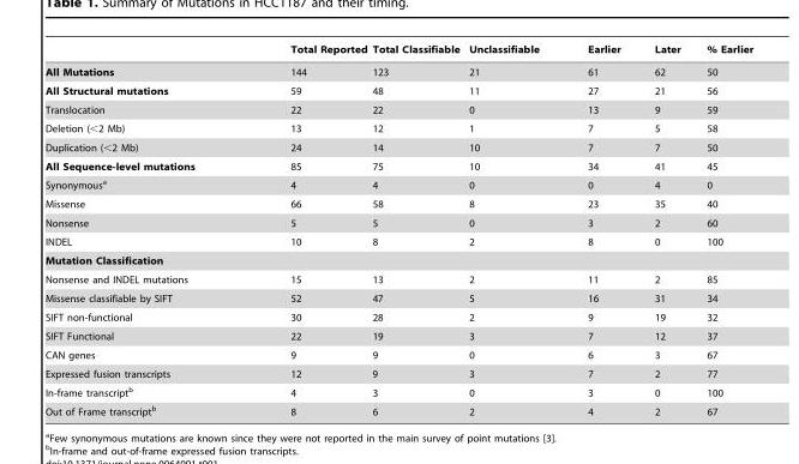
<table><thead><tr><td></td><td>Total Reported</td><td>Total Classifiable</td><td>Unclassifiable</td><td>Earlier</td><td>Later</td><td>% Earlier</td></tr></thead><tbody><tr><td>All Mutations</td><td>144</td><td>123</td><td>21</td><td>61</td><td>62</td><td>50</td></tr><tr><td>All Structural mutations</td><td>59</td><td>48</td><td>11</td><td>27</td><td>21</td><td>56</td></tr><tr><td>Translocation</td><td>22</td><td>22</td><td>0</td><td>13</td><td>9</td><td>59</td></tr><tr><td>Deletion (&lt;2 Mb)</td><td>13</td><td>12</td><td>1</td><td>7</td><td>5</td><td>58</td></tr><tr><td>Duplication (&lt;2 Mb)</td><td>24</td><td>14</td><td>10</td><td>7</td><td>7</td><td>50</td></tr><tr><td>All Sequence-level mutations</td><td>85</td><td>75</td><td>10</td><td>34</td><td>41</td><td>45</td></tr><tr><td>Synonymous<sup>a</sup></td><td>4</td><td>4</td><td>0</td><td>0</td><td>4</td><td>0</td></tr><tr><td>Missense</td><td>66</td><td>58</td><td>8</td><td>23</td><td>35</td><td>40</td></tr><tr><td>Nonsense</td><td>5</td><td>5</td><td>0</td><td>3</td><td>2</td><td>60</td></tr><tr><td>INDEL</td><td>10</td><td>8</td><td>2</td><td>8</td><td>0</td><td>100</td></tr><tr><td colspan="7">Mutation Classification</td></tr><tr><td>Nonsense and INDEL mutations</td><td>15</td><td>13</td><td>2</td><td>11</td><td>2</td><td>85</td></tr><tr><td>Missense classifiable by SIFT</td><td>52</td><td>47</td><td>5</td><td>16</td><td>31</td><td>34</td></tr><tr><td>SIFT non-functional</td><td>30</td><td>28</td><td>2</td><td>9</td><td>19</td><td>32</td></tr><tr><td>SIFT Functional</td><td>22</td><td>19</td><td>3</td><td>7</td><td>12</td><td>37</td></tr><tr><td>CAN genes</td><td>9</td><td>9</td><td>0</td><td>6</td><td>3</td><td>67</td></tr><tr><td>Expressed fusion transcripts</td><td>12</td><td>9</td><td>3</td><td>7</td><td>2</td><td>77</td></tr><tr><td>In-frame transcript<sup>b</sup></td><td>4</td><td>3</td><td>0</td><td>3</td><td>0</td><td>100</td></tr><tr><td>Out of Frame transcript<sup>b</sup></td><td>8</td><td>6</td><td>2</td><td>4</td><td>2</td><td>67</td></tr></tbody></table>